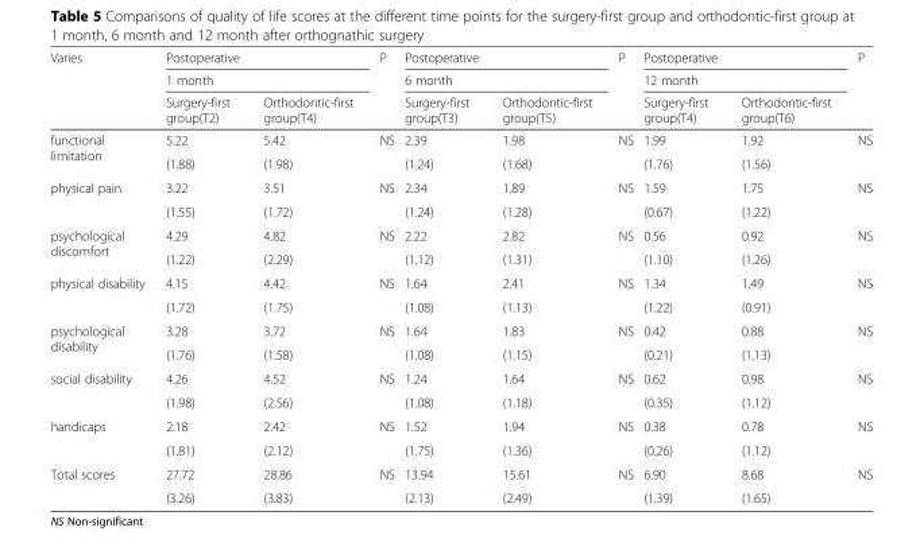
<table><thead><tr><td rowspan="3">Varies</td><td rowspan="2" colspan="2">Postoperative 1 month</td><td rowspan="3">P</td><td rowspan="2" colspan="2">Postoperative 6 month</td><td rowspan="3">P</td><td rowspan="2" colspan="2">Postoperative 12 month</td><td rowspan="3">P</td></tr><tr></tr><tr><td>Surgery-first group(T2)</td><td>Orthodontic-first group(T4)</td><td>Surgery-first group(T3)</td><td>Orthodontic-first group(T5)</td><td>Surgery-first group(T4)</td><td>Orthodontic-first group(T6)</td></tr></thead><tbody><tr><td rowspan="2">functional limitation</td><td>5.22</td><td>5.42</td><td rowspan="2">NS</td><td>2.39</td><td>1.98</td><td rowspan="2">NS</td><td>1.99</td><td>1.92</td><td rowspan="2">NS</td></tr><tr><td>(1.88)</td><td>(1.98)</td><td>(1.24)</td><td>(1.68)</td><td>(1.76)</td><td>(1.56)</td></tr><tr><td rowspan="2">physical pain</td><td>3.22</td><td>3.51</td><td rowspan="2">NS</td><td>2.34</td><td>1.89</td><td rowspan="2">NS</td><td>1.59</td><td>1.75</td><td rowspan="2">NS</td></tr><tr><td>(1.55)</td><td>(1.72)</td><td>(1.24)</td><td>(1.28)</td><td>(0.67)</td><td>(1.22)</td></tr><tr><td rowspan="2">psychological discomfort</td><td>4.29</td><td>4.82</td><td rowspan="2">NS</td><td>2.22</td><td>2.82</td><td rowspan="2">NS</td><td>0.56</td><td>0.92</td><td rowspan="2">NS</td></tr><tr><td>(1.22)</td><td>(2.29)</td><td>(1.12)</td><td>(1.31)</td><td>(1.10)</td><td>(1.26)</td></tr><tr><td rowspan="2">physical disability</td><td>4.15</td><td>4.42</td><td rowspan="2">NS</td><td>1.64</td><td>2.41</td><td rowspan="2">NS</td><td>1.34</td><td>1.49</td><td rowspan="2">NS</td></tr><tr><td>(1.72)</td><td>(1.75)</td><td>(1.08)</td><td>(1.13)</td><td>(1.22)</td><td>(0.91)</td></tr><tr><td rowspan="2">psychological disability</td><td>3.28</td><td>3.72</td><td rowspan="2">NS</td><td>1.64</td><td>1.83</td><td rowspan="2">NS</td><td>0.42</td><td>0.88</td><td rowspan="2">NS</td></tr><tr><td>(1.76)</td><td>(1.58)</td><td>(1.08)</td><td>(1.15)</td><td>(0.21)</td><td>(1.13)</td></tr><tr><td rowspan="2">social disability</td><td>4.26</td><td>4.52</td><td rowspan="2">NS</td><td>1.24</td><td>1.64</td><td rowspan="2">NS</td><td>0.62</td><td>0.98</td><td rowspan="2">NS</td></tr><tr><td>(1.98)</td><td>(2.56)</td><td>(1.08)</td><td>(1.18)</td><td>(0.35)</td><td>(1.12)</td></tr><tr><td rowspan="2">handicaps</td><td>2.18</td><td>2.42</td><td rowspan="2">NS</td><td>1.52</td><td>1.94</td><td rowspan="2">NS</td><td>0.38</td><td>0.78</td><td rowspan="2">NS</td></tr><tr><td>(1.81)</td><td>(2.12)</td><td>(1.75)</td><td>(1.36)</td><td>(0.26)</td><td>(1.12)</td></tr><tr><td rowspan="2">Total scores</td><td>27.72</td><td>28.86</td><td rowspan="2">NS</td><td>13.94</td><td>15.61</td><td rowspan="2">NS</td><td>6.90</td><td>8.68</td><td rowspan="2">NS</td></tr><tr><td>(3.26)</td><td>(3.83)</td><td>(2.13)</td><td>(2.49)</td><td>(1.39)</td><td>(1.65)</td></tr></tbody></table>